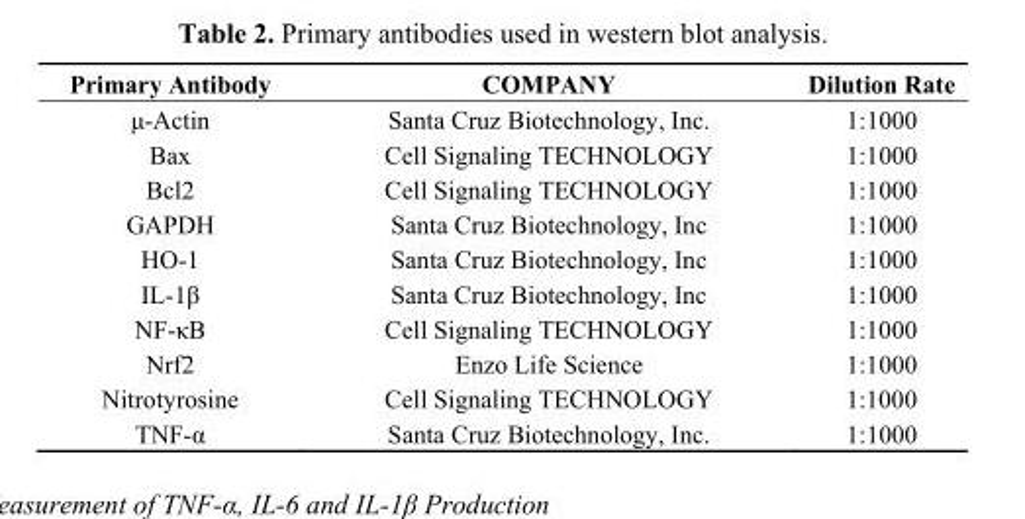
<table><thead><tr><td>Primary Antibody</td><td>COMPANY</td><td>Dilution Rate</td></tr></thead><tbody><tr><td>μ-Actin</td><td>Santa Cruz Biotechnology, Inc.</td><td>1:1000</td></tr><tr><td>Bax</td><td>Cell Signaling TECHNOLOGY</td><td>1:1000</td></tr><tr><td>Bcl2</td><td>Cell Signaling TECHNOLOGY</td><td>1:1000</td></tr><tr><td>GAPDH</td><td>Santa Cruz Biotechnology, Inc</td><td>1:1000</td></tr><tr><td>HO-1</td><td>Santa Cruz Biotechnology, Inc</td><td>1:1000</td></tr><tr><td>IL-1β</td><td>Santa Cruz Biotechnology, Inc</td><td>1:1000</td></tr><tr><td>NF-κB</td><td>Cell Signaling TECHNOLOGY</td><td>1:1000</td></tr><tr><td>Nrf2</td><td>Enzo Life Science</td><td>1:1000</td></tr><tr><td>Nitrotyrosine</td><td>Cell Signaling TECHNOLOGY</td><td>1:1000</td></tr><tr><td>TNF-α</td><td>Santa Cruz Biotechnology, Inc.</td><td>1:1000</td></tr></tbody></table>